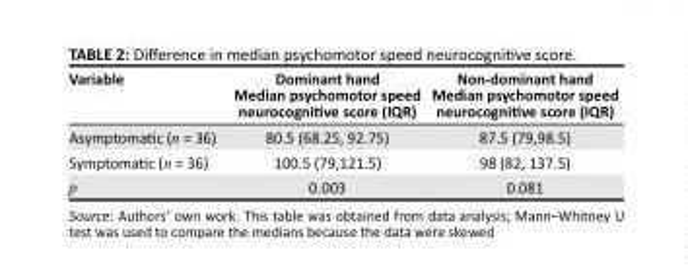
<table><thead><tr><td>Variable</td><td>Dominant hand Median psychomotor speed neurocognitive score (IQR)</td><td>Non-dominant hand Median psychomotor speed neurocognitive score (IQR)</td></tr></thead><tbody><tr><td>Asymptomatic (n = 36)</td><td>80.5 (68.25, 92.75)</td><td>87.5 (79,98.5)</td></tr><tr><td>Symptomatic (n = 36)</td><td>100.5 (79,121.5)</td><td>98 (82, 137.5)</td></tr><tr><td>p</td><td>0.003</td><td>0.081</td></tr></tbody></table>